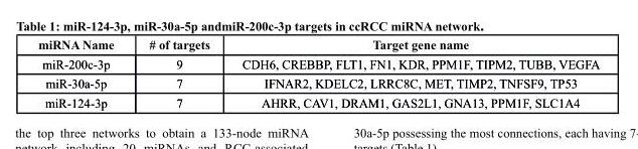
<table><thead><tr><td>mirnA name</td><td># of targets</td><td>target gene name</td></tr></thead><tbody><tr><td>miR-200c-3p</td><td>9</td><td>CDH6, CREBBP, FLT1, FN1, KDR, PPM1F, TIPM2, TUBB, VEGFA</td></tr><tr><td>miR-30a-5p</td><td>7</td><td>IFNAR2, KDELC2, LRRC8C, MET, TIMP2, TNFSF9, TP53</td></tr><tr><td>miR-124-3p</td><td>7</td><td>AHRR, CAV1, DRAM1, GAS2L1, GNA13, PPM1F, SLC1A4</td></tr></tbody></table>